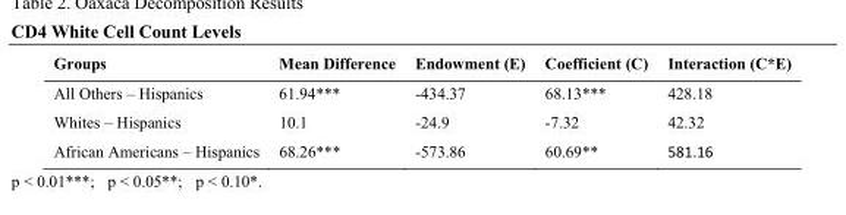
<table><thead><tr><td>Groups</td><td>Mean Difference</td><td>Endowment (E)</td><td>Coefficient (C)</td><td>Interaction (C*E)</td></tr></thead><tbody><tr><td>All Others – Hispanics</td><td>61.94***</td><td>-434.37</td><td>68.13***</td><td>428.18</td></tr><tr><td>Whites – Hispanics</td><td>10.1</td><td>-24.9</td><td>-7.32</td><td>42.32</td></tr><tr><td>African Americans – Hispanics</td><td>68.26***</td><td>-573.86</td><td>60.69**</td><td>581.16</td></tr></tbody></table>